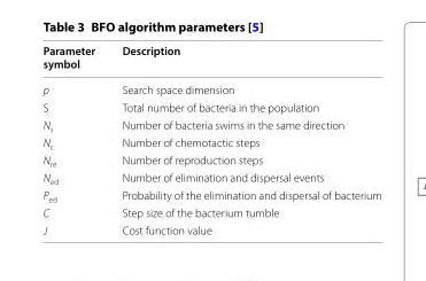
<table><thead><tr><td>Parameter symbol</td><td>Description</td></tr></thead><tbody><tr><td>p</td><td>Search space dimension</td></tr><tr><td>S</td><td>Total number of bacteria in the population</td></tr><tr><td>N<sub>s</sub></td><td>Number of bacteria swims in the same direction</td></tr><tr><td>N<sub>c</sub></td><td>Number of chemotactic steps</td></tr><tr><td>N<sub>re</sub></td><td>Number of reproduction steps</td></tr><tr><td>N<sub>ed</sub></td><td>Number of elimination and dispersal events</td></tr><tr><td>P<sub>ed</sub></td><td>Probability of the elimination and dispersal of bacterium</td></tr><tr><td>C</td><td>Step size of the bacterium tumble</td></tr><tr><td>J</td><td>Cost function value</td></tr></tbody></table>